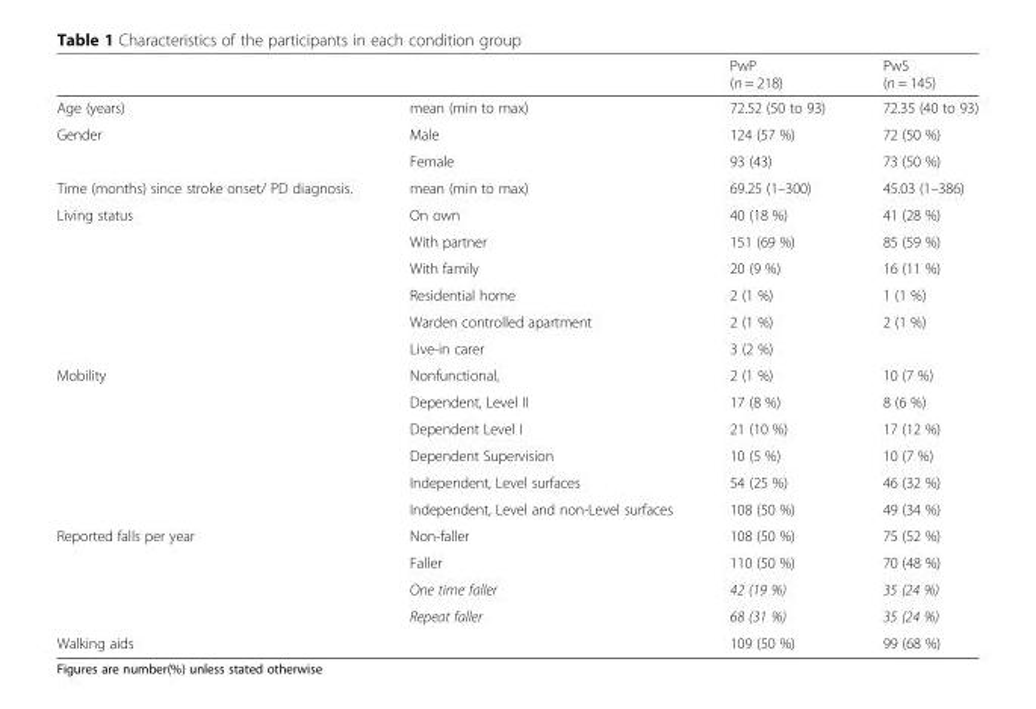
<table><thead><tr><td></td><td></td><td>PwP (n = 218)</td><td>PwS (n = 145)</td></tr></thead><tbody><tr><td>Age (years)</td><td>mean (min to max)</td><td>72.52 (50 to 93)</td><td>72.35 (40 to 93)</td></tr><tr><td rowspan="2">Gender</td><td>Male</td><td>124 (57 %)</td><td>72 (50 %)</td></tr><tr><td>Female</td><td>93 (43)</td><td>73 (50 %)</td></tr><tr><td>Time (months) since stroke onset/ PD diagnosis.</td><td>mean (min to max)</td><td>69.25 (1–300)</td><td>45.03 (1–386)</td></tr><tr><td rowspan="6">Living status</td><td>On own</td><td>40 (18 %)</td><td>41 (28 %)</td></tr><tr><td>With partner</td><td>151 (69 %)</td><td>85 (59 %)</td></tr><tr><td>With family</td><td>20 (9 %)</td><td>16 (11 %)</td></tr><tr><td>Residential home</td><td>2 (1 %)</td><td>1 (1 %)</td></tr><tr><td>Warden controlled apartment</td><td>2 (1 %)</td><td>2 (1 %)</td></tr><tr><td>Live-in carer</td><td>3 (2 %)</td><td></td></tr><tr><td rowspan="6">Mobility</td><td>Nonfunctional,</td><td>2 (1 %)</td><td>10 (7 %)</td></tr><tr><td>Dependent, Level II</td><td>17 (8 %)</td><td>8 (6 %)</td></tr><tr><td>Dependent Level I</td><td>21 (10 %)</td><td>17 (12 %)</td></tr><tr><td>Dependent Supervision</td><td>10 (5 %)</td><td>10 (7 %)</td></tr><tr><td>Independent, Level surfaces</td><td>54 (25 %)</td><td>46 (32 %)</td></tr><tr><td>Independent, Level and non-Level surfaces</td><td>108 (50 %)</td><td>49 (34 %)</td></tr><tr><td rowspan="4">Reported falls per year</td><td>Non-faller</td><td>108 (50 %)</td><td>75 (52 %)</td></tr><tr><td>Faller</td><td>110 (50 %)</td><td>70 (48 %)</td></tr><tr><td>One time faller</td><td>42 (19 %)</td><td>35 (24 %)</td></tr><tr><td>Repeat faller</td><td>68 (31 %)</td><td>35 (24 %)</td></tr><tr><td colspan="2">Walking aids</td><td>109 (50 %)</td><td>99 (68 %)</td></tr></tbody></table>